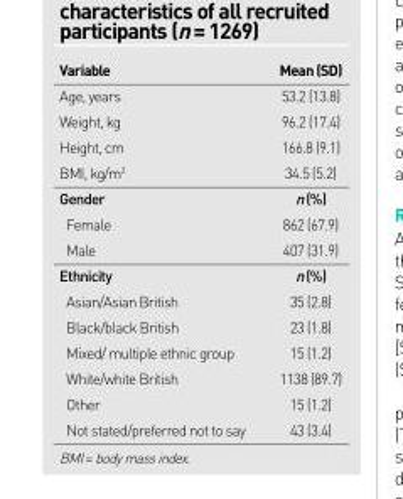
<table><thead><tr><td>Variable</td><td>Mean (SD)</td></tr></thead><tbody><tr><td>Age, years</td><td>53.2 (13.8)</td></tr><tr><td>Weight, kg</td><td>96.2 (17.4)</td></tr><tr><td>Height, cm</td><td>166.8 (9.1)</td></tr><tr><td>BMI, kg/m<sup>2</sup></td><td>34.5 (5.2)</td></tr><tr><td>Gender</td><td>n (%)</td></tr><tr><td>Female</td><td>862 (67.9)</td></tr><tr><td>Male</td><td>407 (31.9)</td></tr><tr><td>Ethnicity</td><td>n (%)</td></tr><tr><td>Asian/Asian British</td><td>35 (2.8)</td></tr><tr><td>Black/black British</td><td>23 (1.8)</td></tr><tr><td>Mixed/ multiple ethnic group</td><td>15 (1.2)</td></tr><tr><td>White/white British</td><td>1138 (89.7)</td></tr><tr><td>Other</td><td>15 (1.2)</td></tr><tr><td>Not stated/preferred not to say</td><td>43 (3.4)</td></tr></tbody></table>